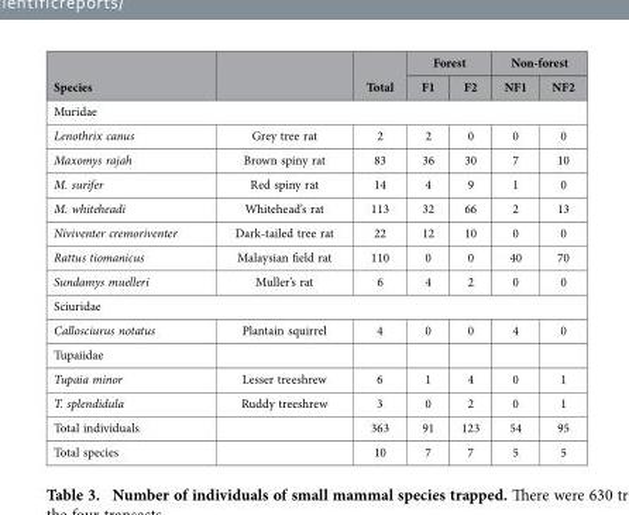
<table><thead><tr><td rowspan="2">Species</td><td rowspan="2"></td><td rowspan="2">Total</td><td colspan="2">Forest</td><td colspan="2">Non-forest</td></tr><tr><td>F1</td><td>F2</td><td>NF1</td><td>NF2</td></tr></thead><tbody><tr><td colspan="7">Muridae</td></tr><tr><td>Lenothrix canus</td><td>Grey tree rat</td><td>2</td><td>2</td><td>0</td><td>0</td><td>0</td></tr><tr><td>Maxomys rajah</td><td>Brown spiny rat</td><td>83</td><td>36</td><td>30</td><td>7</td><td>10</td></tr><tr><td>M. surifer</td><td>Red spiny rat</td><td>14</td><td>4</td><td>9</td><td>1</td><td>0</td></tr><tr><td>M. whiteheadi</td><td>Whitehead’s rat</td><td>113</td><td>32</td><td>66</td><td>2</td><td>13</td></tr><tr><td>Niviventer cremoriventer</td><td>Dark-tailed tree rat</td><td>22</td><td>12</td><td>10</td><td>0</td><td>0</td></tr><tr><td>Rattus tiomanicus</td><td>Malaysian field rat</td><td>110</td><td>0</td><td>0</td><td>40</td><td>70</td></tr><tr><td>Sundamys muelleri</td><td>Muller’s rat</td><td>6</td><td>4</td><td>2</td><td>0</td><td>0</td></tr><tr><td colspan="7">Sciuridae</td></tr><tr><td>Callosciurus notatus</td><td>Plantain squirrel</td><td>4</td><td>0</td><td>0</td><td>4</td><td>0</td></tr><tr><td colspan="7">Tupaiidae</td></tr><tr><td>Tupaia minor</td><td>Lesser treeshrew</td><td>6</td><td>1</td><td>4</td><td>0</td><td>1</td></tr><tr><td>T. splendidula</td><td>Ruddy treeshrew</td><td>3</td><td>0</td><td>2</td><td>0</td><td>1</td></tr><tr><td>Total individuals</td><td></td><td>363</td><td>91</td><td>123</td><td>54</td><td>95</td></tr><tr><td>Total species</td><td></td><td>10</td><td>7</td><td>7</td><td>5</td><td>5</td></tr></tbody></table>